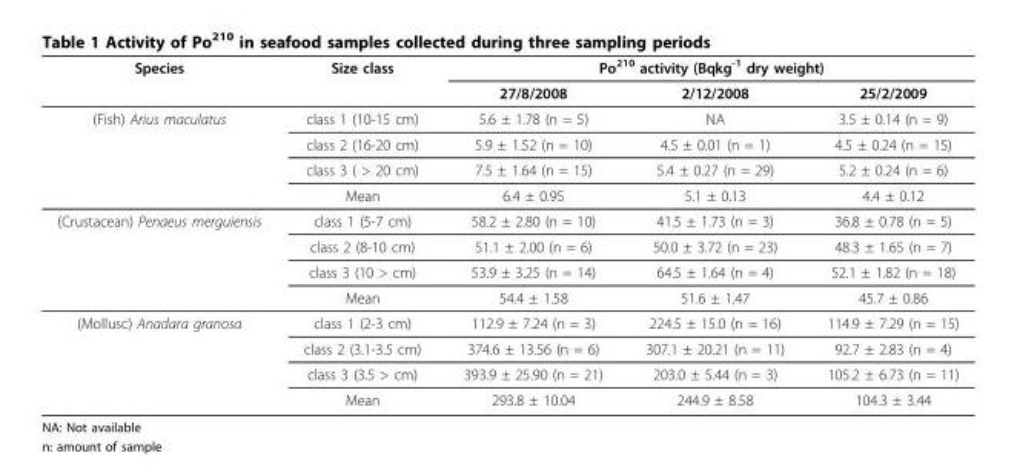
<table><thead><tr><td rowspan="2">Species</td><td rowspan="2">Size class</td><td colspan="3">Po<sup>210</sup> activity (Bqkg<sup>-1</sup> dry weight)</td></tr><tr><td>27/8/2008</td><td>2/12/2008</td><td>25/2/2009</td></tr></thead><tbody><tr><td rowspan="4">(Fish) Arius maculatus</td><td>class 1 (10-15 cm)</td><td>5.6 ± 1.78 (n = 5)</td><td>NA</td><td>3.5 ± 0.14 (n = 9)</td></tr><tr><td>class 2 (16-20 cm)</td><td>5.9 ± 1.52 (n = 10)</td><td>4.5 ± 0.01 (n = 1)</td><td>4.5 ± 0.24 (n = 15)</td></tr><tr><td>class 3 ( &gt; 20 cm)</td><td>7.5 ± 1.64 (n = 15)</td><td>5.4 ± 0.27 (n = 29)</td><td>5.2 ± 0.24 (n = 6)</td></tr><tr><td>Mean</td><td>6.4 ± 0.95</td><td>5.1 ± 0.13</td><td>4.4 ± 0.12</td></tr><tr><td rowspan="4">(Crustacean) Penaeus merguiensis</td><td>class 1 (5-7 cm)</td><td>58.2 ± 2.80 (n = 10)</td><td>41.5 ± 1.73 (n = 3)</td><td>36.8 ± 0.78 (n = 5)</td></tr><tr><td>class 2 (8-10 cm)</td><td>51.1 ± 2.00 (n = 6)</td><td>50.0 ± 3.72 (n = 23)</td><td>48.3 ± 1.65 (n = 7)</td></tr><tr><td>class 3 (10 &gt; cm)</td><td>53.9 ± 3.25 (n = 14)</td><td>64.5 ± 1.64 (n = 4)</td><td>52.1 ± 1.82 (n = 18)</td></tr><tr><td>Mean</td><td>54.4 ± 1.58</td><td>51.6 ± 1.47</td><td>45.7 ± 0.86</td></tr><tr><td rowspan="4">(Mollusc) Anadara granosa</td><td>class 1 (2-3 cm)</td><td>112.9 ± 7.24 (n = 3)</td><td>224.5 ± 15.0 (n = 16)</td><td>114.9 ± 7.29 (n = 15)</td></tr><tr><td>class 2 (3.1-3.5 cm)</td><td>374.6 ± 13.56 (n = 6)</td><td>307.1 ± 20.21 (n = 11)</td><td>92.7 ± 2.83 (n = 4)</td></tr><tr><td>class 3 (3.5 &gt; cm)</td><td>393.9 ± 25.90 (n = 21)</td><td>203.0 ± 5.44 (n = 3)</td><td>105.2 ± 6.73 (n = 11)</td></tr><tr><td>Mean</td><td>293.8 ± 10.04</td><td>244.9 ± 8.58</td><td>104.3 ± 3.44</td></tr></tbody></table>